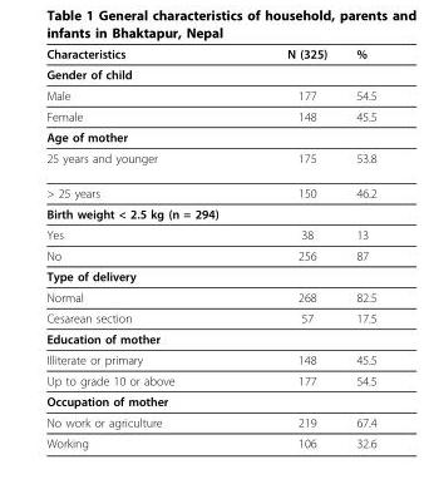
<table><thead><tr><td>Characteristics</td><td>N (325)</td><td>%</td></tr></thead><tbody><tr><td colspan="3">Gender of child</td></tr><tr><td>Male</td><td>177</td><td>54.5</td></tr><tr><td>Female</td><td>148</td><td>45.5</td></tr><tr><td colspan="3">Age of mother</td></tr><tr><td>25 years and younger</td><td>175</td><td>53.8</td></tr><tr><td>&gt; 25 years</td><td>150</td><td>46.2</td></tr><tr><td colspan="3">Birth weight &lt; 2.5 kg (n = 294)</td></tr><tr><td>Yes</td><td>38</td><td>13</td></tr><tr><td>No</td><td>256</td><td>87</td></tr><tr><td colspan="3">Type of delivery</td></tr><tr><td>Normal</td><td>268</td><td>82.5</td></tr><tr><td>Cesarean section</td><td>57</td><td>17.5</td></tr><tr><td colspan="3">Education of mother</td></tr><tr><td>Illiterate or primary</td><td>148</td><td>45.5</td></tr><tr><td>Up to grade 10 or above</td><td>177</td><td>54.5</td></tr><tr><td colspan="3">Occupation of mother</td></tr><tr><td>No work or agriculture</td><td>219</td><td>67.4</td></tr><tr><td>Working</td><td>106</td><td>32.6</td></tr></tbody></table>